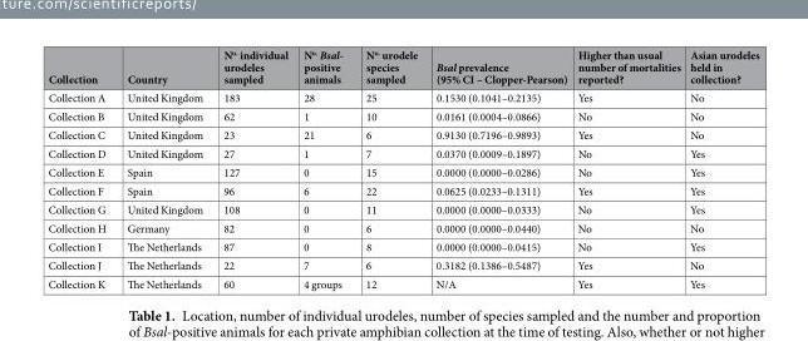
<table><thead><tr><td>Collection</td><td>Country</td><td>N<sup>o.</sup> individual urodeles sampled</td><td>N<sup>o.</sup> Bsal- positive animals</td><td>N<sup>o.</sup> urodele species sampled</td><td>Bsal prevalence (95% CI – Clopper-Pearson)</td><td>Higher than usual number of mortalities reported?</td><td>Asian urodeles held in collection?</td></tr></thead><tbody><tr><td>Collection A</td><td>United Kingdom</td><td>183</td><td>28</td><td>25</td><td>0.1530 (0.1041–0.2135)</td><td>Yes</td><td>No</td></tr><tr><td>Collection B</td><td>United Kingdom</td><td>62</td><td>1</td><td>10</td><td>0.0161 (0.0004–0.0866)</td><td>No</td><td>No</td></tr><tr><td>Collection C</td><td>United Kingdom</td><td>23</td><td>21</td><td>6</td><td>0.9130 (0.7196–0.9893)</td><td>Yes</td><td>No</td></tr><tr><td>Collection D</td><td>United Kingdom</td><td>27</td><td>1</td><td>7</td><td>0.0370 (0.0009–0.1897)</td><td>No</td><td>Yes</td></tr><tr><td>Collection E</td><td>Spain</td><td>127</td><td>0</td><td>15</td><td>0.0000 (0.0000–0.0286)</td><td>No</td><td>Yes</td></tr><tr><td>Collection F</td><td>Spain</td><td>96</td><td>6</td><td>22</td><td>0.0625 (0.0233–0.1311)</td><td>Yes</td><td>Yes</td></tr><tr><td>Collection G</td><td>United Kingdom</td><td>108</td><td>0</td><td>11</td><td>0.0000 (0.0000–0.0333)</td><td>No</td><td>Yes</td></tr><tr><td>Collection H</td><td>Germany</td><td>82</td><td>0</td><td>6</td><td>0.0000 (0.0000–0.0440)</td><td>No</td><td>No</td></tr><tr><td>Collection I</td><td>The Netherlands</td><td>87</td><td>0</td><td>8</td><td>0.0000 (0.0000–0.0415)</td><td>No</td><td>Yes</td></tr><tr><td>Collection J</td><td>The Netherlands</td><td>22</td><td>7</td><td>6</td><td>0.3182 (0.1386–0.5487)</td><td>Yes</td><td>No</td></tr><tr><td>Collection K</td><td>The Netherlands</td><td>60</td><td>4 groups</td><td>12</td><td>N/A</td><td>Yes</td><td>Yes</td></tr></tbody></table>